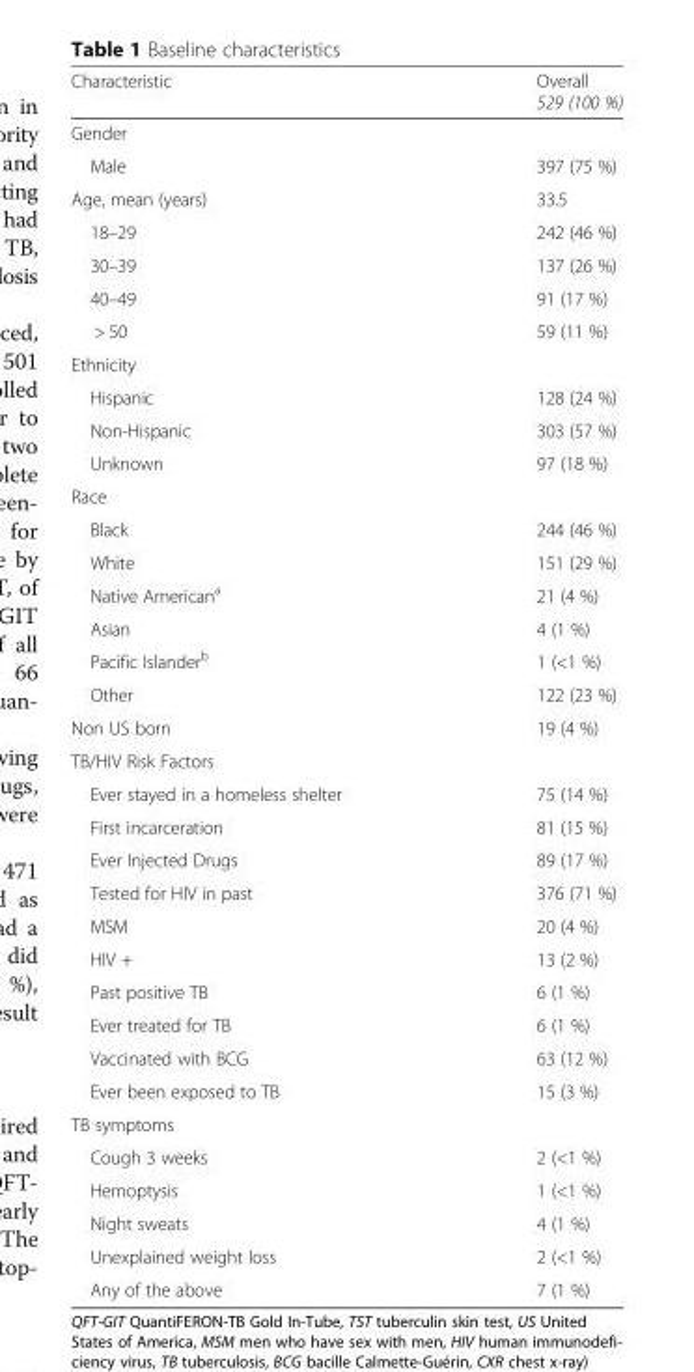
<table><thead><tr><td>Characteristic</td><td>Overall 529 (100 %)</td></tr></thead><tbody><tr><td colspan="2">Gender</td></tr><tr><td>Male</td><td>397 (75 %)</td></tr><tr><td>Age, mean (years)</td><td>33.5</td></tr><tr><td>18–29</td><td>242 (46 %)</td></tr><tr><td>30–39</td><td>137 (26 %)</td></tr><tr><td>40–49</td><td>91 (17 %)</td></tr><tr><td>&gt; 50</td><td>59 (11 %)</td></tr><tr><td colspan="2">Ethnicity</td></tr><tr><td>Hispanic</td><td>128 (24 %)</td></tr><tr><td>Non-Hispanic</td><td>303 (57 %)</td></tr><tr><td>Unknown</td><td>97 (18 %)</td></tr><tr><td colspan="2">Race</td></tr><tr><td>Black</td><td>244 (46 %)</td></tr><tr><td>White</td><td>151 (29 %)</td></tr><tr><td>Native American<sup>a</sup></td><td>21 (4 %)</td></tr><tr><td>Asian</td><td>4 (1 %)</td></tr><tr><td>Pacific Islander<sup>b</sup></td><td>1 (&lt;1 %)</td></tr><tr><td>Other</td><td>122 (23 %)</td></tr><tr><td>Non US born</td><td>19 (4 %)</td></tr><tr><td colspan="2">TB/HIV Risk Factors</td></tr><tr><td>Ever stayed in a homeless shelter</td><td>75 (14 %)</td></tr><tr><td>First incarceration</td><td>81 (15 %)</td></tr><tr><td>Ever Injected Drugs</td><td>89 (17 %)</td></tr><tr><td>Tested for HIV in past</td><td>376 (71 %)</td></tr><tr><td>MSM</td><td>20 (4 %)</td></tr><tr><td>HIV +</td><td>13 (2 %)</td></tr><tr><td>Past positive TB</td><td>6 (1 %)</td></tr><tr><td>Ever treated for TB</td><td>6 (1 %)</td></tr><tr><td>Vaccinated with BCG</td><td>63 (12 %)</td></tr><tr><td>Ever been exposed to TB</td><td>15 (3 %)</td></tr><tr><td colspan="2">TB symptoms</td></tr><tr><td>Cough 3 weeks</td><td>2 (&lt;1 %)</td></tr><tr><td>Hemoptysis</td><td>1 (&lt;1 %)</td></tr><tr><td>Night sweats</td><td>4 (1 %)</td></tr><tr><td>Unexplained weight loss</td><td>2 (&lt;1 %)</td></tr><tr><td>Any of the above</td><td>7 (1 %)</td></tr></tbody></table>